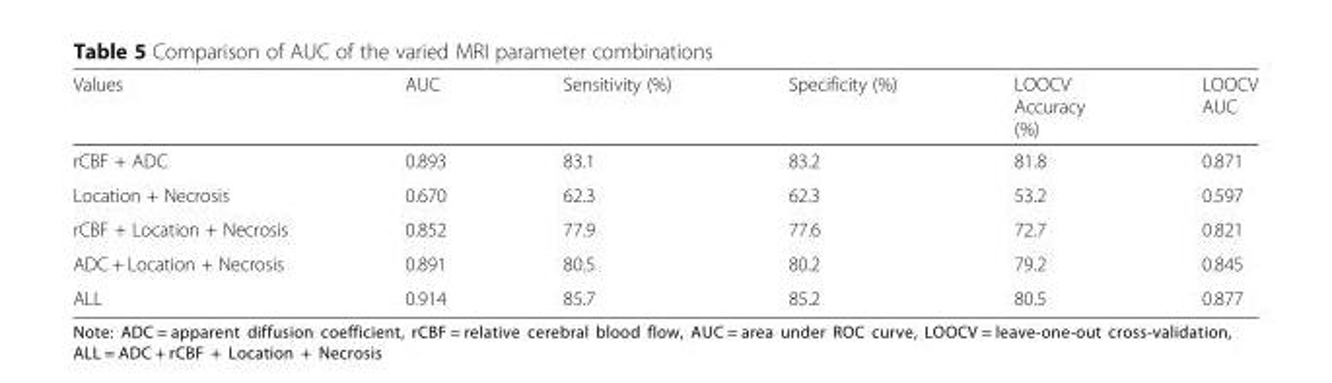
<table><thead><tr><td>Values</td><td>AUC</td><td>Sensitivity (%)</td><td>Specificity (%)</td><td>LOOCV Accuracy (%)</td><td>LOOCV AUC</td></tr></thead><tbody><tr><td>rCBF + ADC</td><td>0.893</td><td>83.1</td><td>83.2</td><td>81.8</td><td>0.871</td></tr><tr><td>Location + Necrosis</td><td>0.670</td><td>62.3</td><td>62.3</td><td>53.2</td><td>0.597</td></tr><tr><td>rCBF + Location + Necrosis</td><td>0.852</td><td>77.9</td><td>77.6</td><td>72.7</td><td>0.821</td></tr><tr><td>ADC + Location + Necrosis</td><td>0.891</td><td>80.5</td><td>80.2</td><td>79.2</td><td>0.845</td></tr><tr><td>ALL</td><td>0.914</td><td>85.7</td><td>85.2</td><td>80.5</td><td>0.877</td></tr></tbody></table>